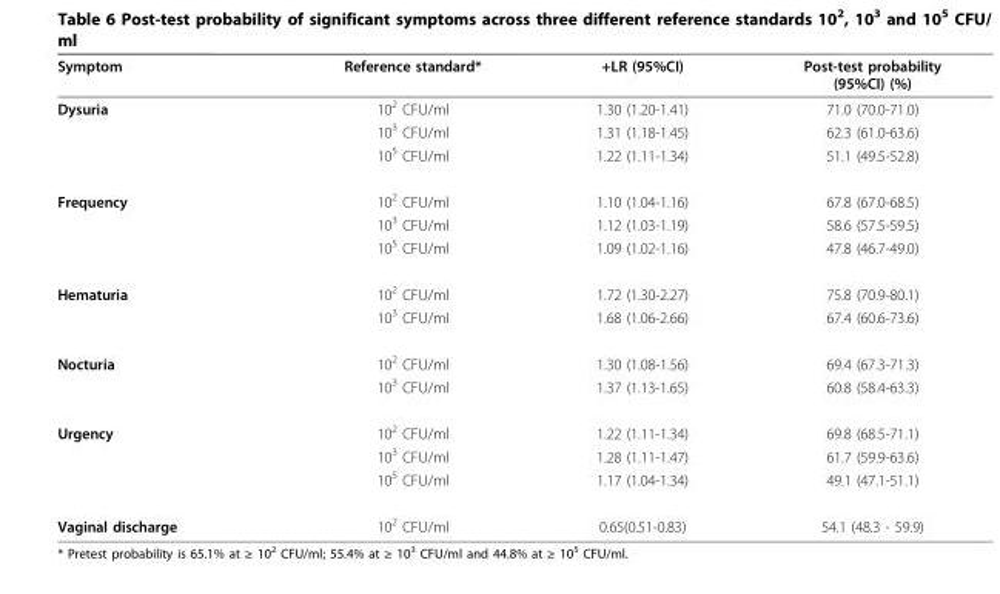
<table><thead><tr><td>Symptom</td><td>Reference standard*</td><td>+LR (95%CI)</td><td>Post-test probability (95%CI) (%)</td></tr></thead><tbody><tr><td rowspan="3">Dysuria</td><td>10<sup>2</sup> CFU/ml</td><td>1.30 (1.20-1.41)</td><td>71.0 (70.0-71.0)</td></tr><tr><td>10<sup>3</sup> CFU/ml</td><td>1.31 (1.18-1.45)</td><td>62.3 (61.0-63.6)</td></tr><tr><td>10<sup>5</sup> CFU/ml</td><td>1.22 (1.11-1.34)</td><td>51.1 (49.5-52.8)</td></tr><tr><td rowspan="3">Frequency</td><td>10<sup>2</sup> CFU/ml</td><td>1.10 (1.04-1.16)</td><td>67.8 (67.0-68.5)</td></tr><tr><td>10<sup>3</sup> CFU/ml</td><td>1.12 (1.03-1.19)</td><td>58.6 (57.5-59.5)</td></tr><tr><td>10<sup>5</sup> CFU/ml</td><td>1.09 (1.02-1.16)</td><td>47.8 (46.7-49.0)</td></tr><tr><td rowspan="2">Hematuria</td><td>10<sup>2</sup> CFU/ml</td><td>1.72 (1.30-2.27)</td><td>75.8 (70.9-80.1)</td></tr><tr><td>10<sup>3</sup> CFU/ml</td><td>1.68 (1.06-2.66)</td><td>67.4 (60.6-73.6)</td></tr><tr><td rowspan="2">Nocturia</td><td>10<sup>2</sup> CFU/ml</td><td>1.30 (1.08-1.56)</td><td>69.4 (67.3-71.3)</td></tr><tr><td>10<sup>3</sup> CFU/ml</td><td>1.37 (1.13-1.65)</td><td>60.8 (58.4-63.3)</td></tr><tr><td rowspan="3">Urgency</td><td>10<sup>2</sup> CFU/ml</td><td>1.22 (1.11-1.34)</td><td>69.8 (68.5-71.1)</td></tr><tr><td>10<sup>3</sup> CFU/ml</td><td>1.28 (1.11-1.47)</td><td>61.7 (59.9-63.6)</td></tr><tr><td>10<sup>5</sup> CFU/ml</td><td>1.17 (1.04-1.34)</td><td>49.1 (47.1-51.1)</td></tr><tr><td>Vaginal discharge</td><td>10<sup>2</sup> CFU/ml</td><td>0.65(0.51-0.83)</td><td>54.1 (48.3 - 59.9)</td></tr></tbody></table>